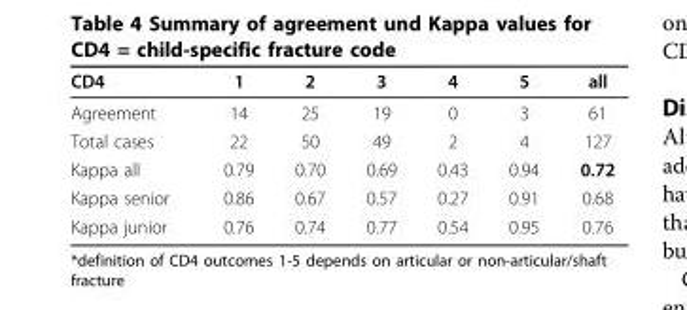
<table><thead><tr><td>CD4</td><td>1</td><td>2</td><td>3</td><td>4</td><td>5</td><td>all</td></tr></thead><tbody><tr><td>Agreement</td><td>14</td><td>25</td><td>19</td><td>0</td><td>3</td><td>61</td></tr><tr><td>Total cases</td><td>22</td><td>50</td><td>49</td><td>2</td><td>4</td><td>127</td></tr><tr><td>Kappa all</td><td>0.79</td><td>0.70</td><td>0.69</td><td>0.43</td><td>0.94</td><td>0.72</td></tr><tr><td>Kappa senior</td><td>0.86</td><td>0.67</td><td>0.57</td><td>0.27</td><td>0.91</td><td>0.68</td></tr><tr><td>Kappa junior</td><td>0.76</td><td>0.74</td><td>0.77</td><td>0.54</td><td>0.95</td><td>0.76</td></tr></tbody></table>